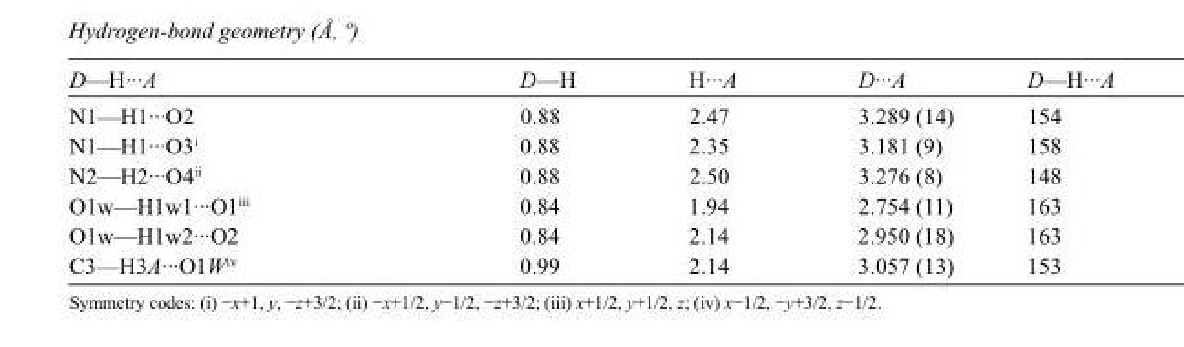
<table><tbody><tr><td>D—H···A</td><td>D—H</td><td>H···A</td><td>D···A</td><td>D—H···A</td></tr><tr><td>N1—H1···O2</td><td>0.88</td><td>2.47</td><td>3.289 (14)</td><td>154</td></tr><tr><td>N1—H1···O3<sup>i</sup></td><td>0.88</td><td>2.35</td><td>3.181 (9)</td><td>158</td></tr><tr><td>N2—H2···O4<sup>ii</sup></td><td>0.88</td><td>2.50</td><td>3.276 (8)</td><td>148</td></tr><tr><td>O1w—H1w1···O1<sup>iii</sup></td><td>0.84</td><td>1.94</td><td>2.754 (11)</td><td>163</td></tr><tr><td>O1w—H1w2···O2</td><td>0.84</td><td>2.14</td><td>2.950 (18)</td><td>163</td></tr><tr><td>C3—H3A···O1W<sup>iv</sup></td><td>0.99</td><td>2.14</td><td>3.057 (13)</td><td>153</td></tr></tbody></table>